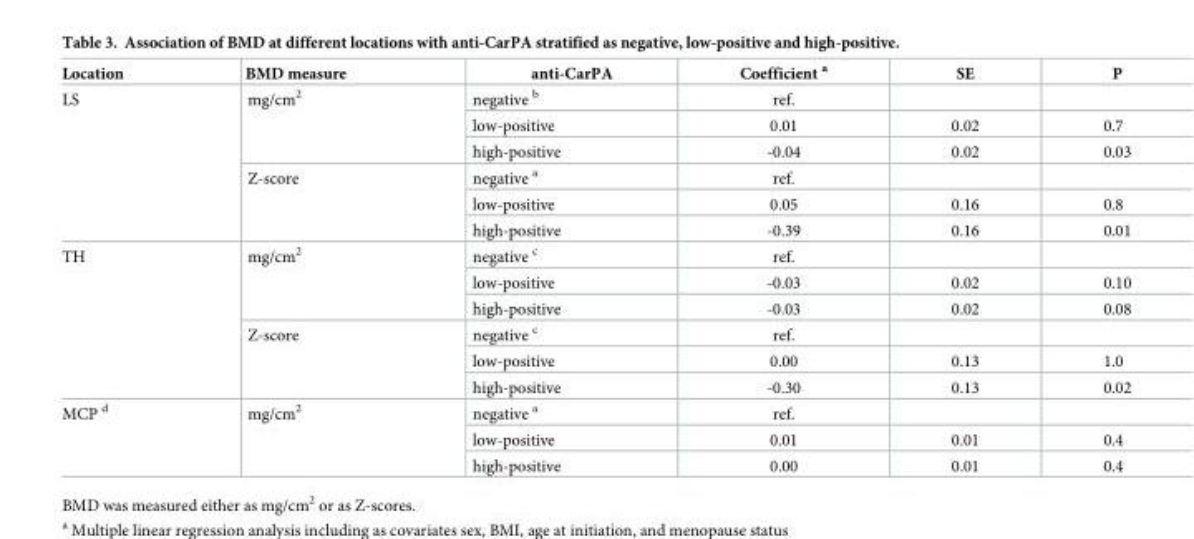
<table><thead><tr><td>Location</td><td>BMD measure</td><td>anti-CarPA</td><td>Coefficient <sup>a</sup></td><td>SE</td><td>P</td></tr></thead><tbody><tr><td rowspan="6">LS</td><td rowspan="3">mg/cm<sup>2</sup></td><td>negative <sup>b</sup></td><td>ref.</td><td></td><td></td></tr><tr><td>low-positive</td><td>0.01</td><td>0.02</td><td>0.7</td></tr><tr><td>high-positive</td><td>-0.04</td><td>0.02</td><td>0.03</td></tr><tr><td rowspan="3">Z-score</td><td>negative <sup>a</sup></td><td>ref.</td><td></td><td></td></tr><tr><td>low-positive</td><td>0.05</td><td>0.16</td><td>0.8</td></tr><tr><td>high-positive</td><td>-0.39</td><td>0.16</td><td>0.01</td></tr><tr><td rowspan="6">TH</td><td rowspan="3">mg/cm<sup>2</sup></td><td>negative <sup>c</sup></td><td>ref.</td><td></td><td></td></tr><tr><td>low-positive</td><td>-0.03</td><td>0.02</td><td>0.10</td></tr><tr><td>high-positive</td><td>-0.03</td><td>0.02</td><td>0.08</td></tr><tr><td rowspan="3">Z-score</td><td>negative <sup>c</sup></td><td>ref.</td><td></td><td></td></tr><tr><td>low-positive</td><td>0.00</td><td>0.13</td><td>1.0</td></tr><tr><td>high-positive</td><td>-0.30</td><td>0.13</td><td>0.02</td></tr><tr><td rowspan="3">MCP <sup>d</sup></td><td rowspan="3">mg/cm<sup>2</sup></td><td>negative <sup>a</sup></td><td>ref.</td><td></td><td></td></tr><tr><td>low-positive</td><td>0.01</td><td>0.01</td><td>0.4</td></tr><tr><td>high-positive</td><td>0.00</td><td>0.01</td><td>0.4</td></tr></tbody></table>